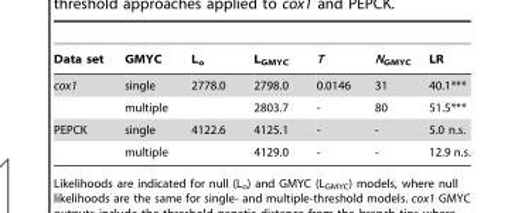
<table><thead><tr><td>Data set</td><td>GMYC</td><td>L<sub>o</sub></td><td>L<sub>GMYC</sub></td><td>T</td><td>N<sub>GMYC</sub></td><td>LR</td></tr></thead><tbody><tr><td rowspan="2">cox1</td><td>single</td><td>2778.0</td><td>2798.0</td><td>0.0146</td><td>31</td><td>40.1***</td></tr><tr><td>multiple</td><td></td><td>2803.7</td><td>-</td><td>80</td><td>51.5***</td></tr><tr><td rowspan="2">PEPCK</td><td>single</td><td>4122.6</td><td>4125.1</td><td>-</td><td>-</td><td>5.0 n.s.</td></tr><tr><td>multiple</td><td></td><td>4129.0</td><td>-</td><td>-</td><td>12.9 n.s.</td></tr></tbody></table>